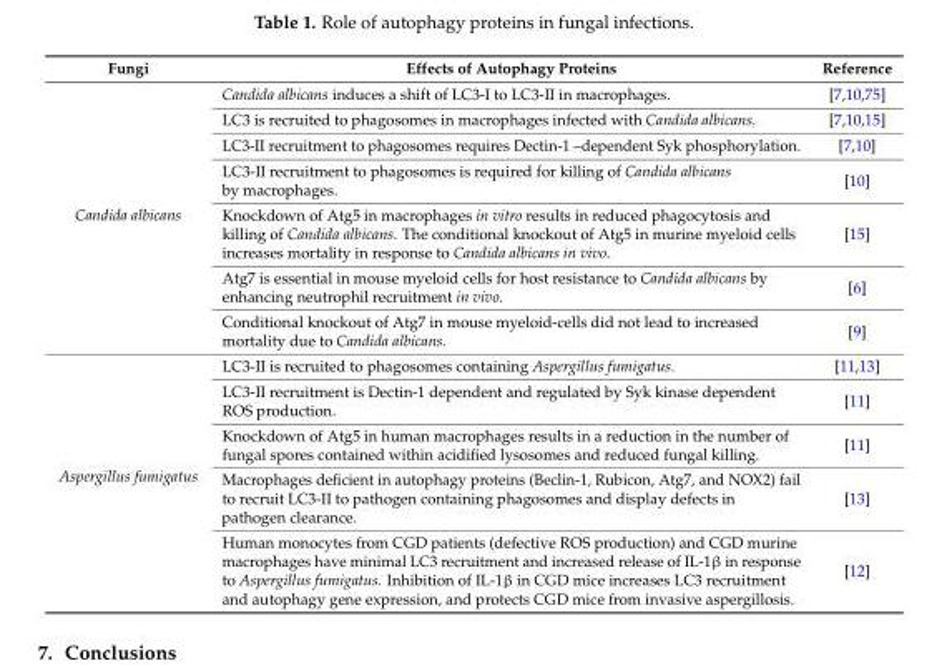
<table><thead><tr><td>Fungi</td><td>Effects of Autophagy Proteins</td><td>Reference</td></tr></thead><tbody><tr><td rowspan="7">Candida albicans</td><td>Candida albicans induces a shift of LC3-I to LC3-II in macrophages.</td><td>[7,10,75]</td></tr><tr><td>LC3 is recruited to phagosomes in macrophages infected with Candida albicans.</td><td>[7,10,15]</td></tr><tr><td>LC3-II recruitment to phagosomes requires Dectin-1 –dependent Syk phosphorylation.</td><td>[7,10]</td></tr><tr><td>LC3-II recruitment to phagosomes is required for killing of Candida albicans by macrophages.</td><td>[10]</td></tr><tr><td>Knockdown of Atg5 in macrophages in vitro results in reduced phagocytosis and killing of Candida albicans. The conditional knockout of Atg5 in murine myeloid cells increases mortality in response to Candida albicans in vivo.</td><td>[15]</td></tr><tr><td>Atg7 is essential in mouse myeloid cells for host resistance to Candida albicans by enhancing neutrophil recruitment in vivo.</td><td>[6]</td></tr><tr><td>Conditional knockout of Atg7 in mouse myeloid-cells did not lead to increased mortality due to Candida albicans.</td><td>[9]</td></tr><tr><td rowspan="5">Aspergillus fumigatus</td><td>LC3-II is recruited to phagosomes containing Aspergillus fumigatus.</td><td>[11,13]</td></tr><tr><td>LC3-II recruitment is Dectin-1 dependent and regulated by Syk kinase dependent ROS production.</td><td>[11]</td></tr><tr><td>Knockdown of Atg5 in human macrophages results in a reduction in the number of fungal spores contained within acidified lysosomes and reduced fungal killing.</td><td>[11]</td></tr><tr><td>Macrophages deficient in autophagy proteins (Beclin-1, Rubicon, Atg7, and NOX2) fail to recruit LC3-II to pathogen containing phagosomes and display defects in pathogen clearance.</td><td>[13]</td></tr><tr><td>Human monocytes from CGD patients (defective ROS production) and CGD murine macrophages have minimal LC3 recruitment and increased release of IL-1β in response to Aspergillus fumigatus. Inhibition of IL-1β in CGD mice increases LC3 recruitment and autophagy gene expression, and protects CGD mice from invasive aspergillosis.</td><td>[12]</td></tr></tbody></table>